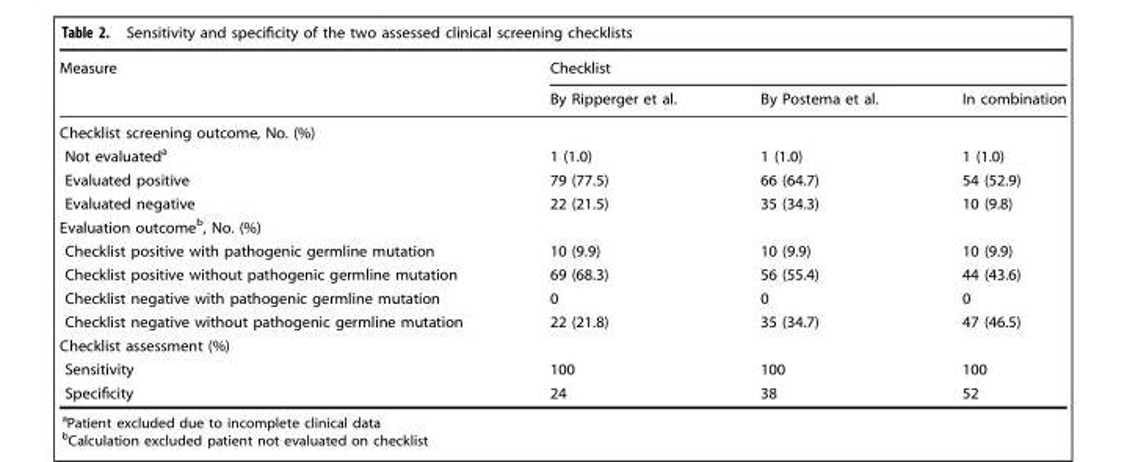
<table><thead><tr><td rowspan="2">Measure</td><td colspan="3">Checklist</td></tr><tr><td>By Ripperger et al.</td><td>By Postema et al.</td><td>In combination</td></tr></thead><tbody><tr><td colspan="4">Checklist screening outcome, No. (%)</td></tr><tr><td>Not evaluated<sup>a</sup></td><td>1 (1.0)</td><td>1 (1.0)</td><td>1 (1.0)</td></tr><tr><td>Evaluated positive</td><td>79 (77.5)</td><td>66 (64.7)</td><td>54 (52.9)</td></tr><tr><td>Evaluated negative</td><td>22 (21.5)</td><td>35 (34.3)</td><td>10 (9.8)</td></tr><tr><td colspan="4">Evaluation outcome<sup>b</sup>, No. (%)</td></tr><tr><td>Checklist positive with pathogenic germline mutation</td><td>10 (9.9)</td><td>10 (9.9)</td><td>10 (9.9)</td></tr><tr><td>Checklist positive without pathogenic germline mutation</td><td>69 (68.3)</td><td>56 (55.4)</td><td>44 (43.6)</td></tr><tr><td>Checklist negative with pathogenic germline mutation</td><td>0</td><td>0</td><td>0</td></tr><tr><td>Checklist negative without pathogenic germline mutation</td><td>22 (21.8)</td><td>35 (34.7)</td><td>47 (46.5)</td></tr><tr><td colspan="4">Checklist assessment (%)</td></tr><tr><td>Sensitivity</td><td>100</td><td>100</td><td>100</td></tr><tr><td>Specificity</td><td>24</td><td>38</td><td>52</td></tr></tbody></table>